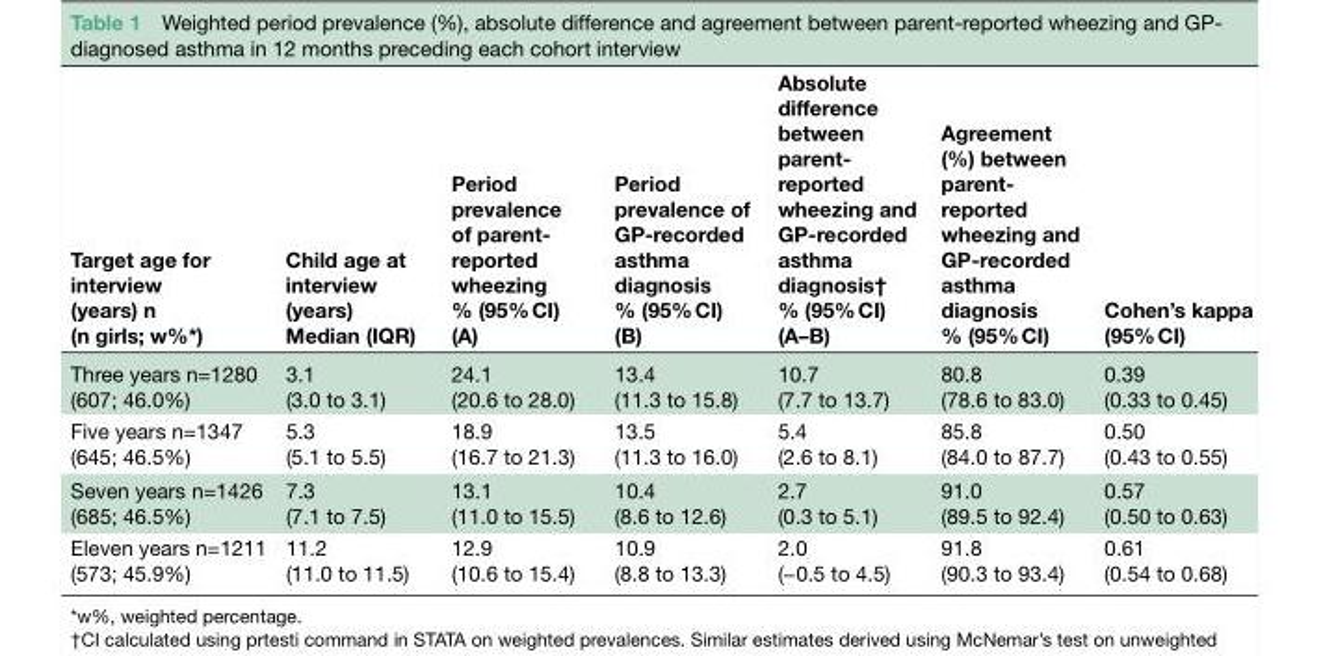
<table><thead><tr><td>Target age for interview (years) n (n girls; w%*)</td><td>Child age at interview (years) Median (IQR)</td><td>Period prevalence of parent- reported wheezing % (95% CI) (A)</td><td>Period prevalence of GP-recorded asthma diagnosis % (95% CI) (B)</td><td>Absolute difference between parent- reported wheezing and GP-recorded asthma diagnosis† % (95% CI) (A–B)</td><td>Agreement (%) between parent- reported wheezing and GP-recorded asthma diagnosis % (95% CI)</td><td>Cohen’s kappa (95% CI)</td></tr></thead><tbody><tr><td>Three years n=1280 (607; 46.0%)</td><td>3.1 (3.0 to 3.1)</td><td>24.1 (20.6 to 28.0)</td><td>13.4 (11.3 to 15.8)</td><td>10.7 (7.7 to 13.7)</td><td>80.8 (78.6 to 83.0)</td><td>0.39 (0.33 to 0.45)</td></tr><tr><td>Five years n=1347 (645; 46.5%)</td><td>5.3 (5.1 to 5.5)</td><td>18.9 (16.7 to 21.3)</td><td>13.5 (11.3 to 16.0)</td><td>5.4 (2.6 to 8.1)</td><td>85.8 (84.0 to 87.7)</td><td>0.50 (0.43 to 0.55)</td></tr><tr><td>Seven years n=1426 (685; 46.5%)</td><td>7.3 (7.1 to 7.5)</td><td>13.1 (11.0 to 15.5)</td><td>10.4 (8.6 to 12.6)</td><td>2.7 (0.3 to 5.1)</td><td>91.0 (89.5 to 92.4)</td><td>0.57 (0.50 to 0.63)</td></tr><tr><td>Eleven years n=1211 (573; 45.9%)</td><td>11.2 (11.0 to 11.5)</td><td>12.9 (10.6 to 15.4)</td><td>10.9 (8.8 to 13.3)</td><td>2.0 (−0.5 to 4.5)</td><td>91.8 (90.3 to 93.4)</td><td>0.61 (0.54 to 0.68)</td></tr></tbody></table>